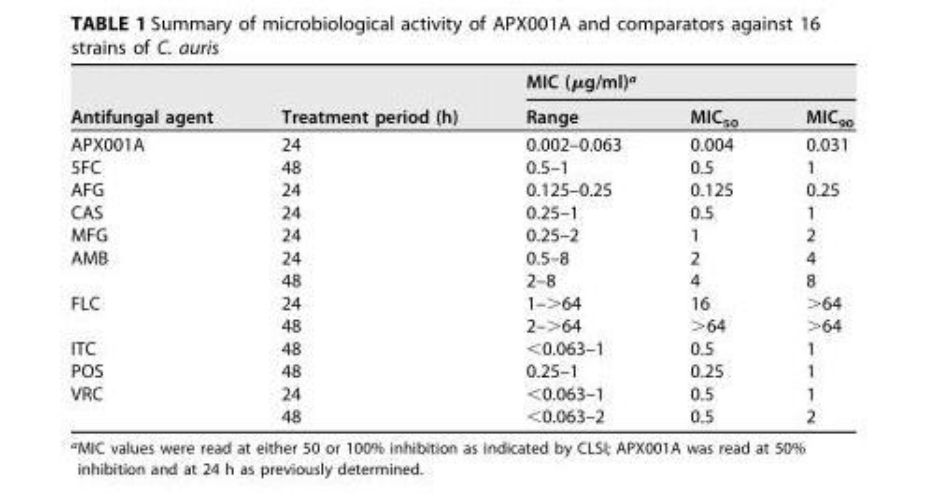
<table><thead><tr><td rowspan="2">Antifungal agent</td><td rowspan="2">Treatment period (h)</td><td colspan="3">MIC (μg/ml)<sup>a</sup></td></tr><tr><td>Range</td><td>MIC<sub>50</sub></td><td>MIC<sub>90</sub></td></tr></thead><tbody><tr><td>APX001A</td><td>24</td><td>0.002–0.063</td><td>0.004</td><td>0.031</td></tr><tr><td>5FC</td><td>48</td><td>0.5–1</td><td>0.5</td><td>1</td></tr><tr><td>AFG</td><td>24</td><td>0.125–0.25</td><td>0.125</td><td>0.25</td></tr><tr><td>CAS</td><td>24</td><td>0.25–1</td><td>0.5</td><td>1</td></tr><tr><td>MFG</td><td>24</td><td>0.25–2</td><td>1</td><td>2</td></tr><tr><td rowspan="2">AMB</td><td>24</td><td>0.5–8</td><td>2</td><td>4</td></tr><tr><td>48</td><td>2–8</td><td>4</td><td>8</td></tr><tr><td rowspan="2">FLC</td><td>24</td><td>1–&gt;64</td><td>16</td><td>&gt;64</td></tr><tr><td>48</td><td>2–&gt;64</td><td>&gt;64</td><td>&gt;64</td></tr><tr><td>ITC</td><td>48</td><td>&lt;0.063–1</td><td>0.5</td><td>1</td></tr><tr><td>POS</td><td>48</td><td>0.25–1</td><td>0.25</td><td>1</td></tr><tr><td rowspan="2">VRC</td><td>24</td><td>&lt;0.063–1</td><td>0.5</td><td>1</td></tr><tr><td>48</td><td>&lt;0.063–2</td><td>0.5</td><td>2</td></tr></tbody></table>